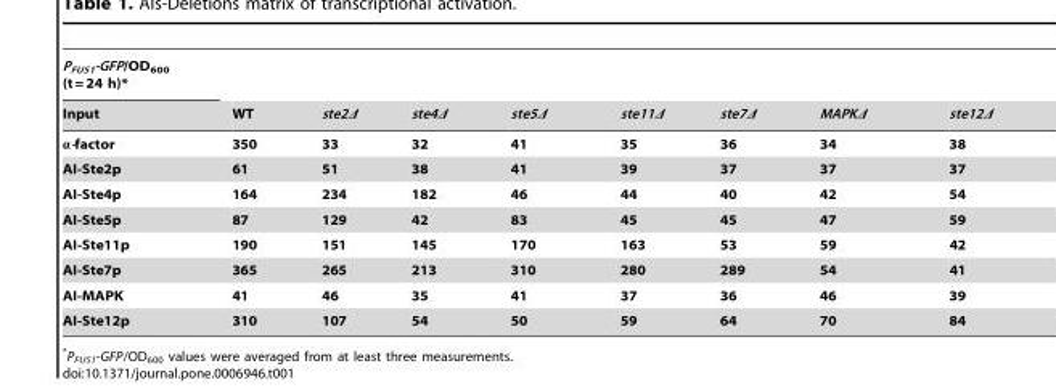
<table><thead><tr><td rowspan="2">P<sub>FUS1</sub>-GFP/OD<sub>600</sub> (t = 24 h)* Input</td><td rowspan="2">WT</td><td rowspan="2">ste2Δ</td><td rowspan="2">ste4Δ</td><td rowspan="2">ste5Δ</td><td rowspan="2">ste11Δ</td><td rowspan="2">ste7Δ</td><td rowspan="2">MAPKΔ</td><td rowspan="2">ste12Δ</td></tr><tr></tr></thead><tbody><tr><td>α-factor</td><td>350</td><td>33</td><td>32</td><td>41</td><td>35</td><td>36</td><td>34</td><td>38</td></tr><tr><td>AI-Ste2p</td><td>61</td><td>51</td><td>38</td><td>41</td><td>39</td><td>37</td><td>37</td><td>37</td></tr><tr><td>AI-Ste4p</td><td>164</td><td>234</td><td>182</td><td>46</td><td>44</td><td>40</td><td>42</td><td>54</td></tr><tr><td>AI-Ste5p</td><td>87</td><td>129</td><td>42</td><td>83</td><td>45</td><td>45</td><td>47</td><td>59</td></tr><tr><td>AI-Ste11p</td><td>190</td><td>151</td><td>145</td><td>170</td><td>163</td><td>53</td><td>59</td><td>42</td></tr><tr><td>AI-Ste7p</td><td>365</td><td>265</td><td>213</td><td>310</td><td>280</td><td>289</td><td>54</td><td>41</td></tr><tr><td>AI-MAPK</td><td>41</td><td>46</td><td>35</td><td>41</td><td>37</td><td>36</td><td>46</td><td>39</td></tr><tr><td>AI-Ste12p</td><td>310</td><td>107</td><td>54</td><td>50</td><td>59</td><td>64</td><td>70</td><td>84</td></tr></tbody></table>